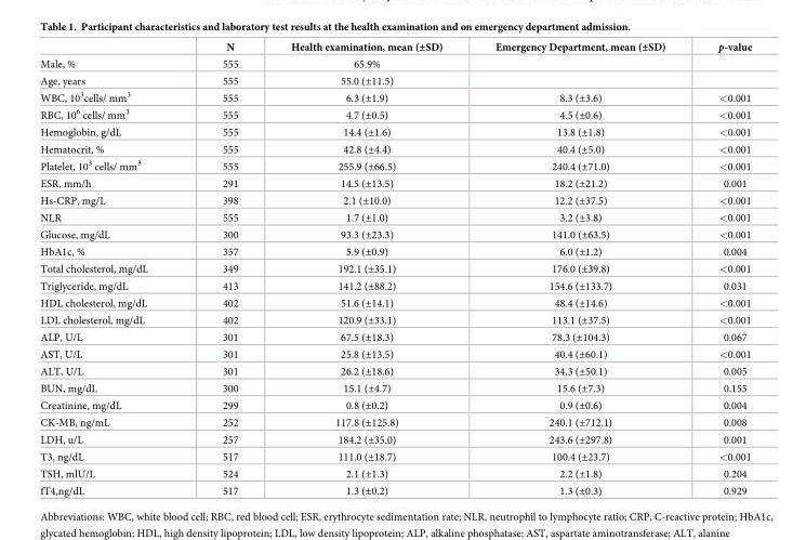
<table><thead><tr><td></td><td>N</td><td>Health examination, mean (±SD)</td><td>Emergency Department, mean (±SD)</td><td>p-value</td></tr></thead><tbody><tr><td>Male, %</td><td>555</td><td>65.9%</td><td></td><td></td></tr><tr><td>Age, years</td><td>555</td><td>55.0 (±11.5)</td><td></td><td></td></tr><tr><td>WBC, 10<sup>3</sup>cells/ mm<sup>3</sup></td><td>555</td><td>6.3 (±1.9)</td><td>8.3 (±3.6)</td><td>&lt;0.001</td></tr><tr><td>RBC, 10<sup>6</sup> cells/ mm<sup>3</sup></td><td>555</td><td>4.7 (±0.5)</td><td>4.5 (±0.6)</td><td>&lt;0.001</td></tr><tr><td>Hemoglobin, g/dL</td><td>555</td><td>14.4 (±1.6)</td><td>13.8 (±1.8)</td><td>&lt;0.001</td></tr><tr><td>Hematocrit, %</td><td>555</td><td>42.8 (±4.4)</td><td>40.4 (±5.0)</td><td>&lt;0.001</td></tr><tr><td>Platelet, 10<sup>3</sup> cells/ mm<sup>3</sup></td><td>555</td><td>255.9 (±66.5)</td><td>240.4 (±71.0)</td><td>&lt;0.001</td></tr><tr><td>ESR, mm/h</td><td>291</td><td>14.5 (±13.5)</td><td>18.2 (±21.2)</td><td>0.001</td></tr><tr><td>Hs-CRP, mg/L</td><td>398</td><td>2.1 (±10.0)</td><td>12.2 (±37.5)</td><td>&lt;0.001</td></tr><tr><td>NLR</td><td>555</td><td>1.7 (±1.0)</td><td>3.2 (±3.8)</td><td>&lt;0.001</td></tr><tr><td>Glucose, mg/dL</td><td>300</td><td>93.3 (±23.3)</td><td>141.0 (±63.5)</td><td>&lt;0.001</td></tr><tr><td>HbA1c, %</td><td>357</td><td>5.9 (±0.9)</td><td>6.0 (±1.2)</td><td>0.004</td></tr><tr><td>Total cholesterol, mg/dL</td><td>349</td><td>192.1 (±35.1)</td><td>176.0 (±39.8)</td><td>&lt;0.001</td></tr><tr><td>Triglyceride, mg/dL</td><td>413</td><td>141.2 (±88.2)</td><td>154.6 (±133.7)</td><td>0.031</td></tr><tr><td>HDL cholesterol, mg/dL</td><td>402</td><td>51.6 (±14.1)</td><td>48.4 (±14.6)</td><td>&lt;0.001</td></tr><tr><td>LDL cholesterol, mg/dL</td><td>402</td><td>120.9 (±33.1)</td><td>113.1 (±37.5)</td><td>&lt;0.001</td></tr><tr><td>ALP, U/L</td><td>301</td><td>67.5 (±18.3)</td><td>78.3 (±104.3)</td><td>0.067</td></tr><tr><td>AST, U/L</td><td>301</td><td>25.8 (±13.5)</td><td>40.4 (±60.1)</td><td>&lt;0.001</td></tr><tr><td>ALT, U/L</td><td>301</td><td>26.2 (±18.6)</td><td>34.3 (±50.1)</td><td>0.005</td></tr><tr><td>BUN, mg/dL</td><td>300</td><td>15.1 (±4.7)</td><td>15.6 (±7.3)</td><td>0.155</td></tr><tr><td>Creatinine, mg/dL</td><td>299</td><td>0.8 (±0.2)</td><td>0.9 (±0.6)</td><td>0.004</td></tr><tr><td>CK-MB, ng/mL</td><td>252</td><td>117.8 (±125.8)</td><td>240.1 (±712.1)</td><td>0.008</td></tr><tr><td>LDH, u/L</td><td>257</td><td>184.2 (±35.0)</td><td>243.6 (±297.8)</td><td>0.001</td></tr><tr><td>T3, ng/dL</td><td>517</td><td>111.0 (±18.7)</td><td>100.4 (±23.7)</td><td>&lt;0.001</td></tr><tr><td>TSH, mlU/L</td><td>524</td><td>2.1 (±1.3)</td><td>2.2 (±1.8)</td><td>0.204</td></tr><tr><td>fT4,ng/dL</td><td>517</td><td>1.3 (±0.2)</td><td>1.3 (±0.3)</td><td>0.929</td></tr></tbody></table>